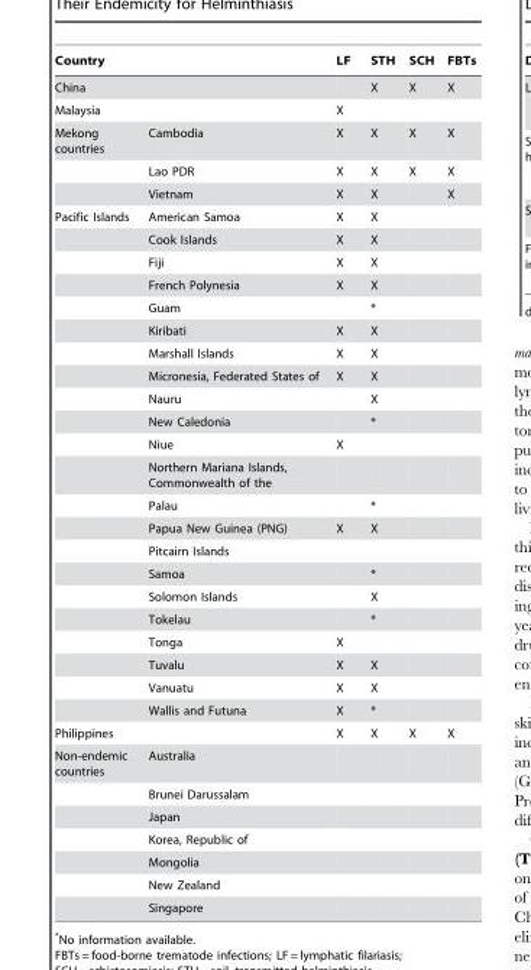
<table><thead><tr><td rowspan="3" colspan="2">Country China Malaysia</td><td rowspan="4">LF X X</td><td rowspan="4">STH X X</td><td rowspan="4">SCH X X</td><td rowspan="4">FBTs X X</td></tr><tr></tr><tr></tr><tr><td>Mekong countries</td><td>Cambodia</td></tr></thead><tbody><tr><td></td><td>Lao PDR</td><td>X</td><td>X</td><td>X</td><td>X</td></tr><tr><td></td><td>Vietnam</td><td>X</td><td>X</td><td></td><td>X</td></tr><tr><td rowspan="22">Pacific Islands</td><td>American Samoa</td><td>X</td><td>X</td><td></td><td></td></tr><tr><td>Cook Islands</td><td>X</td><td>X</td><td></td><td></td></tr><tr><td>Fiji</td><td>X</td><td>X</td><td></td><td></td></tr><tr><td>French Polynesia</td><td>X</td><td>X</td><td></td><td></td></tr><tr><td>Guam</td><td></td><td>*</td><td></td><td></td></tr><tr><td>Kiribati</td><td>X</td><td>X</td><td></td><td></td></tr><tr><td>Marshall Islands</td><td>X</td><td>X</td><td></td><td></td></tr><tr><td>Micronesia, Federated States of</td><td>X</td><td>X</td><td></td><td></td></tr><tr><td>Nauru</td><td></td><td>X</td><td></td><td></td></tr><tr><td>New Caledonia</td><td></td><td>*</td><td></td><td></td></tr><tr><td>Niue</td><td>X</td><td></td><td></td><td></td></tr><tr><td>Northern Mariana Islands, Commonwealth of the</td><td></td><td></td><td></td><td></td></tr><tr><td>Palau</td><td></td><td>*</td><td></td><td></td></tr><tr><td>Papua New Guinea (PNG)</td><td>X</td><td>X</td><td></td><td></td></tr><tr><td>Pitcairn Islands</td><td></td><td></td><td></td><td></td></tr><tr><td>Samoa</td><td></td><td>*</td><td></td><td></td></tr><tr><td>Solomon Islands</td><td></td><td>X</td><td></td><td></td></tr><tr><td>Tokelau</td><td></td><td>*</td><td></td><td></td></tr><tr><td>Tonga</td><td>X</td><td></td><td></td><td></td></tr><tr><td>Tuvalu</td><td>X</td><td>X</td><td></td><td></td></tr><tr><td>Vanuatu</td><td>X</td><td>X</td><td></td><td></td></tr><tr><td>Wallis and Futuna</td><td>X</td><td>*</td><td></td><td></td></tr><tr><td>Philippines</td><td></td><td>X</td><td>X</td><td>X</td><td>X</td></tr><tr><td rowspan="7">Non-endemic countries</td><td>Australia</td><td></td><td></td><td></td><td></td></tr><tr><td>Brunei Darussalam</td><td></td><td></td><td></td><td></td></tr><tr><td>Japan</td><td></td><td></td><td></td><td></td></tr><tr><td>Korea, Republic of</td><td></td><td></td><td></td><td></td></tr><tr><td>Mongolia</td><td></td><td></td><td></td><td></td></tr><tr><td>New Zealand</td><td></td><td></td><td></td><td></td></tr><tr><td>Singapore</td><td></td><td></td><td></td><td></td></tr></tbody></table>